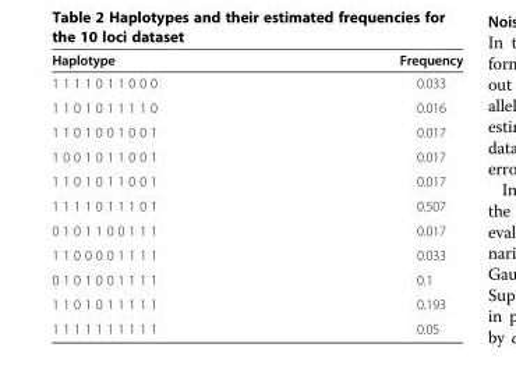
<table><thead><tr><td>Haplotype</td><td>Frequency</td></tr></thead><tbody><tr><td>1 1 1 1 0 1 1 0 0 0</td><td>0.033</td></tr><tr><td>1 1 0 1 0 1 1 1 1 0</td><td>0.016</td></tr><tr><td>1 1 0 1 0 0 1 0 0 1</td><td>0.017</td></tr><tr><td>1 0 0 1 0 1 1 0 0 1</td><td>0.017</td></tr><tr><td>1 1 0 1 0 1 1 0 0 1</td><td>0.017</td></tr><tr><td>1 1 1 1 0 1 1 1 0 1</td><td>0.507</td></tr><tr><td>0 1 0 1 1 0 0 1 1 1</td><td>0.017</td></tr><tr><td>1 1 0 0 0 0 1 1 1 1</td><td>0.033</td></tr><tr><td>0 1 0 1 0 0 1 1 1 1</td><td>0.1</td></tr><tr><td>1 1 0 1 0 1 1 1 1 1</td><td>0.193</td></tr><tr><td>1 1 1 1 1 1 1 1 1 1</td><td>0.05</td></tr></tbody></table>